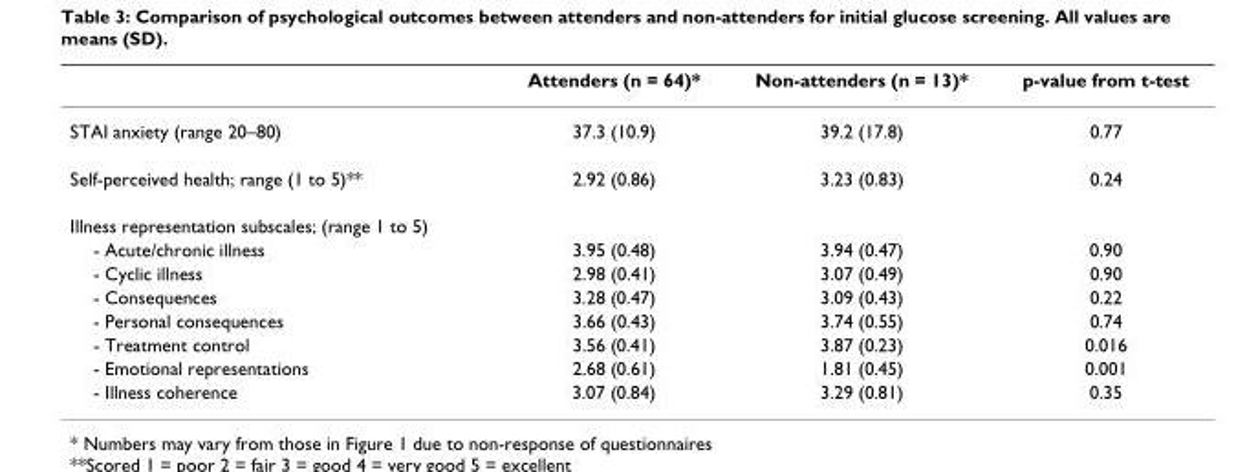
<table><thead><tr><td></td><td>Attenders (n = 64)*</td><td>Non-attenders (n = 13)*</td><td>p-value from t-test</td></tr></thead><tbody><tr><td>STAI anxiety (range 20–80)</td><td>37.3 (10.9)</td><td>39.2 (17.8)</td><td>0.77</td></tr><tr><td>Self-perceived health; range (1 to 5)**</td><td>2.92 (0.86)</td><td>3.23 (0.83)</td><td>0.24</td></tr><tr><td colspan="4">Illness representation subscales; (range 1 to 5)</td></tr><tr><td>- Acute/chronic illness</td><td>3.95 (0.48)</td><td>3.94 (0.47)</td><td>0.90</td></tr><tr><td>- Cyclic illness</td><td>2.98 (0.41)</td><td>3.07 (0.49)</td><td>0.90</td></tr><tr><td>- Consequences</td><td>3.28 (0.47)</td><td>3.09 (0.43)</td><td>0.22</td></tr><tr><td>- Personal consequences</td><td>3.66 (0.43)</td><td>3.74 (0.55)</td><td>0.74</td></tr><tr><td>- Treatment control</td><td>3.56 (0.41)</td><td>3.87 (0.23)</td><td>0.016</td></tr><tr><td>- Emotional representations</td><td>2.68 (0.61)</td><td>1.81 (0.45)</td><td>0.001</td></tr><tr><td>- Illness coherence</td><td>3.07 (0.84)</td><td>3.29 (0.81)</td><td>0.35</td></tr></tbody></table>